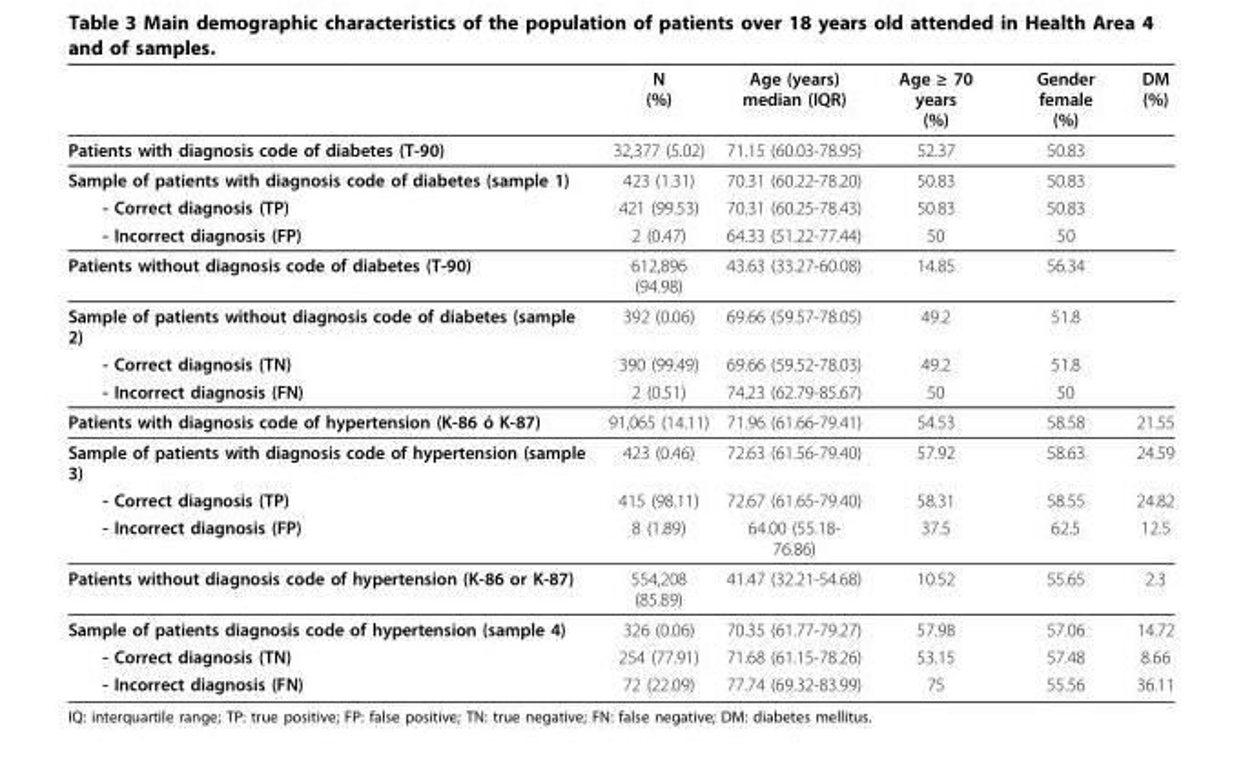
<table><thead><tr><td></td><td>N (%)</td><td>Age (years) median (IQR)</td><td>Age ≥ 70 years (%)</td><td>Gender female (%)</td><td>DM (%)</td></tr></thead><tbody><tr><td>Patients with diagnosis code of diabetes (T-90)</td><td>32,377 (5.02)</td><td>71.15 (60.03-78.95)</td><td>52.37</td><td>50.83</td><td></td></tr><tr><td>Sample of patients with diagnosis code of diabetes (sample 1)</td><td>423 (1.31)</td><td>70.31 (60.22-78.20)</td><td>50.83</td><td>50.83</td><td></td></tr><tr><td>- Correct diagnosis (TP)</td><td>421 (99.53)</td><td>70.31 (60.25-78.43)</td><td>50.83</td><td>50.83</td><td></td></tr><tr><td>- Incorrect diagnosis (FP)</td><td>2 (0.47)</td><td>64.33 (51.22-77.44)</td><td>50</td><td>50</td><td></td></tr><tr><td>Patients without diagnosis code of diabetes (T-90)</td><td>612,896 (94.98)</td><td>43.63 (33.27-60.08)</td><td>14.85</td><td>56.34</td><td></td></tr><tr><td>Sample of patients without diagnosis code of diabetes (sample 2)</td><td>392 (0.06)</td><td>69.66 (59.57-78.05)</td><td>49.2</td><td>51.8</td><td></td></tr><tr><td>- Correct diagnosis (TN)</td><td>390 (99.49)</td><td>69.66 (59.52-78.03)</td><td>49.2</td><td>51.8</td><td></td></tr><tr><td>- Incorrect diagnosis (FN)</td><td>2 (0.51)</td><td>74.23 (62.79-85.67)</td><td>50</td><td>50</td><td></td></tr><tr><td>Patients with diagnosis code of hypertension (K-86 ó K-87)</td><td>91,065 (14.11)</td><td>71.96 (61.66-79.41)</td><td>54.53</td><td>58.58</td><td>21.55</td></tr><tr><td>Sample of patients with diagnosis code of hypertension (sample 3)</td><td>423 (0.46)</td><td>72.63 (61.56-79.40)</td><td>57.92</td><td>58.63</td><td>24.59</td></tr><tr><td>- Correct diagnosis (TP)</td><td>415 (98.11)</td><td>72.67 (61.65-79.40)</td><td>58.31</td><td>58.55</td><td>24.82</td></tr><tr><td>- Incorrect diagnosis (FP)</td><td>8 (1.89)</td><td>64.00 (55.18- 76.86)</td><td>37.5</td><td>62.5</td><td>12.5</td></tr><tr><td>Patients without diagnosis code of hypertension (K-86 or K-87)</td><td>554,208 (85.89)</td><td>41.47 (32.21-54.68)</td><td>10.52</td><td>55.65</td><td>2.3</td></tr><tr><td>Sample of patients diagnosis code of hypertension (sample 4)</td><td>326 (0.06)</td><td>70.35 (61.77-79.27)</td><td>57.98</td><td>57.06</td><td>14.72</td></tr><tr><td>- Correct diagnosis (TN)</td><td>254 (77.91)</td><td>71.68 (61.15-78.26)</td><td>53.15</td><td>57.48</td><td>8.66</td></tr><tr><td>- Incorrect diagnosis (FN)</td><td>72 (22.09)</td><td>77.74 (69.32-83.99)</td><td>75</td><td>55.56</td><td>36.11</td></tr></tbody></table>